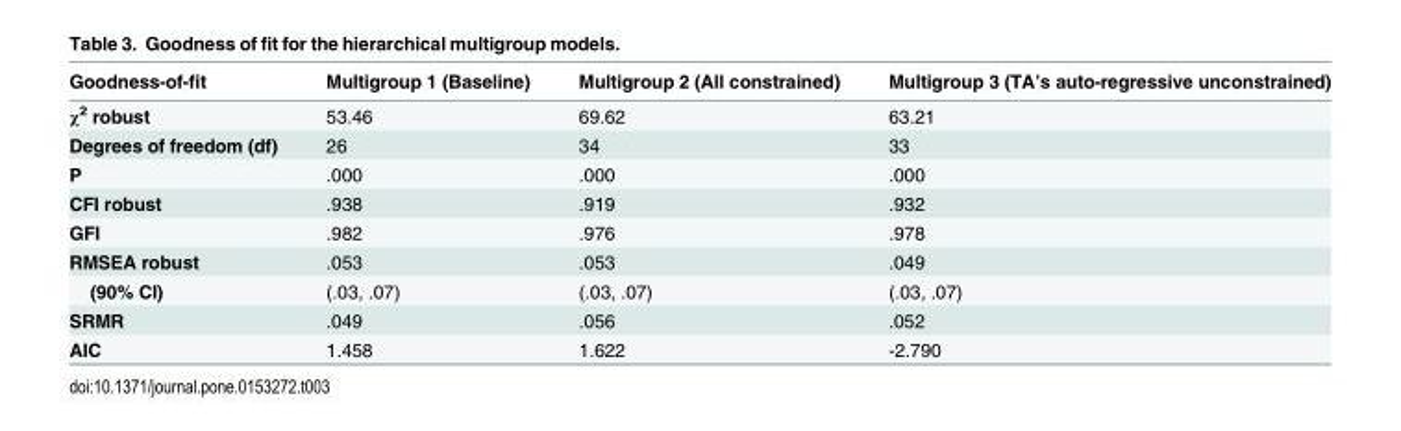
<table><thead><tr><td>Goodness-of-fit</td><td>Multigroup 1 (Baseline)</td><td>Multigroup 2 (All constrained)</td><td>Multigroup 3 (TA’s auto-regressive unconstrained)</td></tr></thead><tbody><tr><td>χ<sup>2</sup> robust</td><td>53.46</td><td>69.62</td><td>63.21</td></tr><tr><td>Degrees of freedom (df)</td><td>26</td><td>34</td><td>33</td></tr><tr><td>P</td><td>.000</td><td>.000</td><td>.000</td></tr><tr><td>CFI robust</td><td>.938</td><td>.919</td><td>.932</td></tr><tr><td>GFI</td><td>.982</td><td>.976</td><td>.978</td></tr><tr><td>RMSEA robust</td><td>.053</td><td>.053</td><td>.049</td></tr><tr><td>(90% CI)</td><td>(.03, .07)</td><td>(.03, .07)</td><td>(.03, .07)</td></tr><tr><td>SRMR</td><td>.049</td><td>.056</td><td>.052</td></tr><tr><td>AIC</td><td>1.458</td><td>1.622</td><td>-2.790</td></tr></tbody></table>